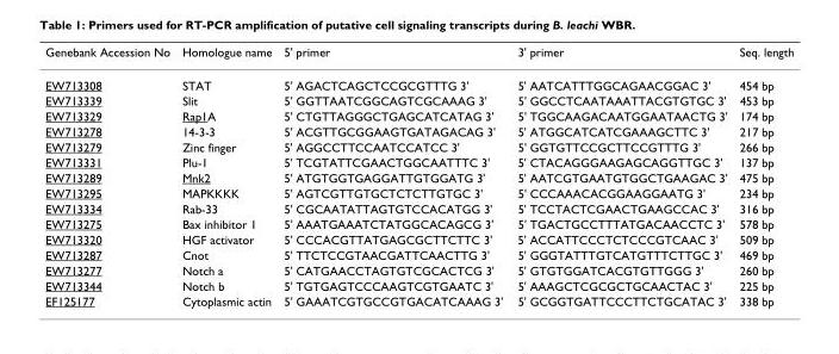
<table><thead><tr><td>Genebank Accession No</td><td>Homologue name</td><td>5&#x27; primer</td><td>3&#x27; primer</td><td>Seq. length</td></tr></thead><tbody><tr><td>EW713308</td><td>STAT</td><td>5&#x27; AGACTCAGCTCCGCGTTTG 3&#x27;</td><td>5&#x27; AATCATTTGGCAGAACGGAC 3&#x27;</td><td>454 bp</td></tr><tr><td>EW713339</td><td>Slit</td><td>5&#x27; GGTTAATCGGCAGTCGCAAAG 3&#x27;</td><td>5&#x27; GGCCTCAATAAATTACGTGTGC 3&#x27;</td><td>453 bp</td></tr><tr><td>EW713329</td><td>Rap1A</td><td>5&#x27; CTGTTAGGGCTGAGCATCATAG 3&#x27;</td><td>5&#x27; TGGCAAGACAATGGAATAACTG 3&#x27;</td><td>174 bp</td></tr><tr><td>EW713278</td><td>14-3-3</td><td>5&#x27; ACGTTGCGGAAGTGATAGACAG 3&#x27;</td><td>5&#x27; ATGGCATCATCGAAAGCTTC 3&#x27;</td><td>217 bp</td></tr><tr><td>EW713279</td><td>Zinc finger</td><td>5&#x27; AGGCCTTCCAATCCATCC 3&#x27;</td><td>5&#x27; GGTGTTCCGCTTCCGTTTG 3&#x27;</td><td>266 bp</td></tr><tr><td>EW713331</td><td>Plu-1</td><td>5&#x27; TCGTATTCGAACTGGCAATTTC 3&#x27;</td><td>5&#x27; CTACAGGGAAGAGCAGGTTGC 3&#x27;</td><td>137 bp</td></tr><tr><td>EW713289</td><td>Mnk2</td><td>5&#x27; ATGTGGTGAGGATTGTGGATG 3&#x27;</td><td>5&#x27; AATCGTGAATGTGGCTGAAGAC 3&#x27;</td><td>475 bp</td></tr><tr><td>EW713295</td><td>MAPKKKK</td><td>5&#x27; AGTCGTTGTGCTCTCTTGTGC 3&#x27;</td><td>5&#x27; CCCAAACACGGAAGGAATG 3&#x27;</td><td>234 bp</td></tr><tr><td>EW713334</td><td>Rab-33</td><td>5&#x27; CGCAATATTAGTGTCCACATGG 3&#x27;</td><td>5&#x27; TCCTACTCGAACTGAAGCCAC 3&#x27;</td><td>316 bp</td></tr><tr><td>EW713275</td><td>Bax inhibitor 1</td><td>5&#x27; AAATGAAATCTATGGCACAGCG 3&#x27;</td><td>5&#x27; TGACTGCCTTTATGACAACCTC 3&#x27;</td><td>578 bp</td></tr><tr><td>EW713320</td><td>HGF activator</td><td>5&#x27; CCCACGTTATGAGCGCTTCTTC 3&#x27;</td><td>5&#x27; ACCATTCCCTCTCCCGTCAAC 3&#x27;</td><td>509 bp</td></tr><tr><td>EW713287</td><td>Cnot</td><td>5&#x27; TTCTCCGTAACGATTCAACTTG 3&#x27;</td><td>5&#x27; GGGTATTTGTCATGTTTCTTGC 3&#x27;</td><td>469 bp</td></tr><tr><td>EW713277</td><td>Notch a</td><td>5&#x27; CATGAACCTAGTGTCGCACTCG 3&#x27;</td><td>5&#x27; GTGTGGATCACGTGTTGGG 3&#x27;</td><td>260 bp</td></tr><tr><td>EW713344</td><td>Notch b</td><td>5&#x27; TGTGAGTCCCAAGTCGTGAATC 3&#x27;</td><td>5&#x27; AAAGCTCGCGCTGCAACTAC 3&#x27;</td><td>225 bp</td></tr><tr><td>EF125177</td><td>Cytoplasmic actin</td><td>5&#x27; GAAATCGTGCCGTGACATCAAAG 3&#x27;</td><td>5&#x27; GCGGTGATTCCCTTCTGCATAC 3&#x27;</td><td>338 bp</td></tr></tbody></table>